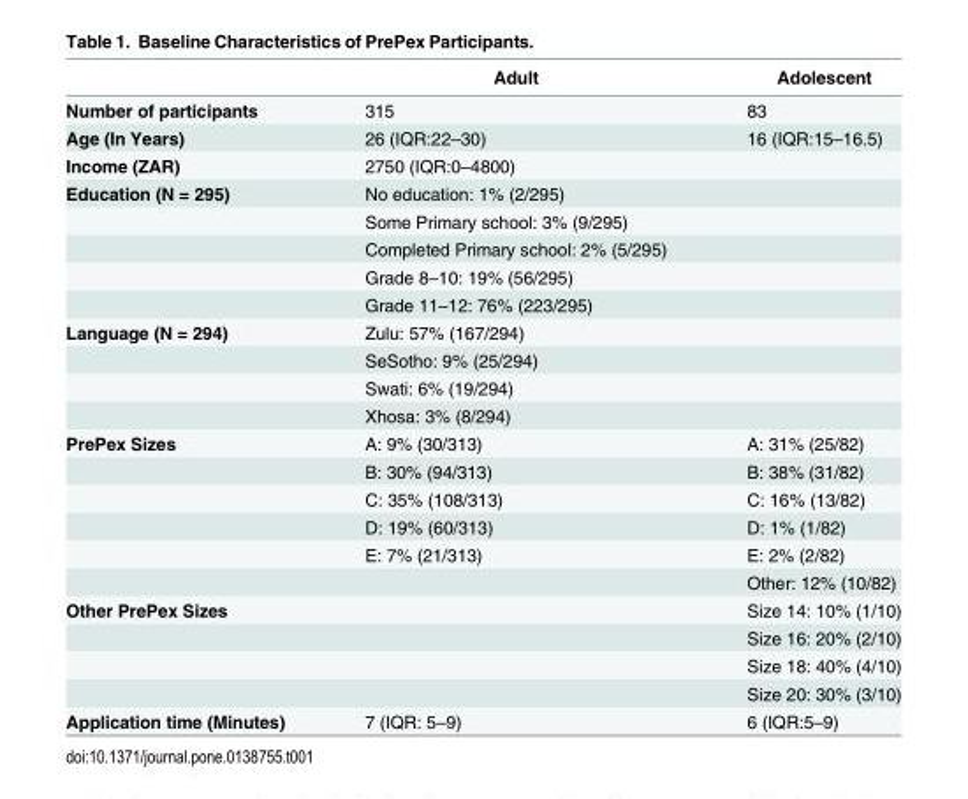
<table><thead><tr><td></td><td>Adult</td><td>Adolescent</td></tr></thead><tbody><tr><td>Number of participants</td><td>315</td><td>83</td></tr><tr><td>Age (In Years)</td><td>26 (IQR:22–30)</td><td>16 (IQR:15–16.5)</td></tr><tr><td>Income (ZAR)</td><td>2750 (IQR:0–4800)</td><td></td></tr><tr><td rowspan="5">Education (N = 295)</td><td>No education: 1% (2/295)</td><td></td></tr><tr><td>Some Primary school: 3% (9/295)</td><td></td></tr><tr><td>Completed Primary school: 2% (5/295)</td><td></td></tr><tr><td>Grade 8–10: 19% (56/295)</td><td></td></tr><tr><td>Grade 11–12: 76% (223/295)</td><td></td></tr><tr><td rowspan="4">Language (N = 294)</td><td>Zulu: 57% (167/294)</td><td></td></tr><tr><td>SeSotho: 9% (25/294)</td><td></td></tr><tr><td>Swati: 6% (19/294)</td><td></td></tr><tr><td>Xhosa: 3% (8/294)</td><td></td></tr><tr><td rowspan="6">PrePex Sizes</td><td>A: 9% (30/313)</td><td>A: 31% (25/82)</td></tr><tr><td>B: 30% (94/313)</td><td>B: 38% (31/82)</td></tr><tr><td>C: 35% (108/313)</td><td>C: 16% (13/82)</td></tr><tr><td>D: 19% (60/313)</td><td>D: 1% (1/82)</td></tr><tr><td>E: 7% (21/313)</td><td>E: 2% (2/82)</td></tr><tr><td></td><td>Other: 12% (10/82)</td></tr><tr><td rowspan="4">Other PrePex Sizes</td><td></td><td>Size 14: 10% (1/10)</td></tr><tr><td></td><td>Size 16: 20% (2/10)</td></tr><tr><td></td><td>Size 18: 40% (4/10)</td></tr><tr><td></td><td>Size 20: 30% (3/10)</td></tr><tr><td>Application time (Minutes)</td><td>7 (IQR: 5–9)</td><td>6 (IQR:5–9)</td></tr></tbody></table>